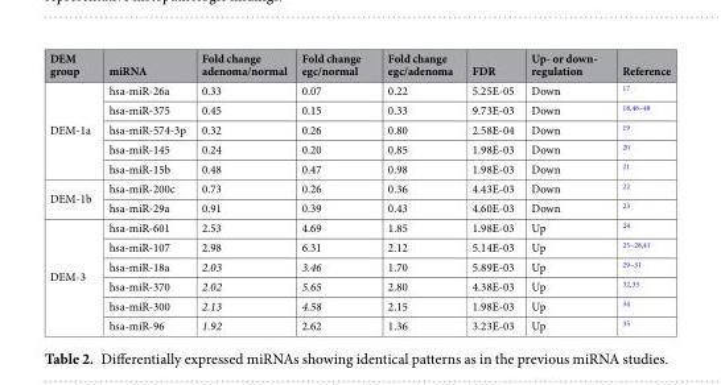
<table><thead><tr><td>DEM group</td><td>miRNA</td><td>Fold change adenoma/normal</td><td>Fold change egc/normal</td><td>Fold change egc/adenoma</td><td>FDR</td><td>Up- or down- regulation</td><td>Reference</td></tr></thead><tbody><tr><td rowspan="5">DEM-1a</td><td>hsa-miR-26a</td><td>0.33</td><td>0.07</td><td>0.22</td><td>5.25E-05</td><td>Down</td><td><sup>17</sup></td></tr><tr><td>hsa-miR-375</td><td>0.45</td><td>0.15</td><td>0.33</td><td>9.73E-03</td><td>Down</td><td><sup>18,46–48</sup></td></tr><tr><td>hsa-miR-574-3p</td><td>0.32</td><td>0.26</td><td>0.80</td><td>2.58E-04</td><td>Down</td><td><sup>19</sup></td></tr><tr><td>hsa-miR-145</td><td>0.24</td><td>0.20</td><td>0.85</td><td>1.98E-03</td><td>Down</td><td><sup>20</sup></td></tr><tr><td>hsa-miR-15b</td><td>0.48</td><td>0.47</td><td>0.98</td><td>1.98E-03</td><td>Down</td><td><sup>21</sup></td></tr><tr><td rowspan="2">DEM-1b</td><td>hsa-miR-200c</td><td>0.73</td><td>0.26</td><td>0.36</td><td>4.43E-03</td><td>Down</td><td><sup>22</sup></td></tr><tr><td>hsa-miR-29a</td><td>0.91</td><td>0.39</td><td>0.43</td><td>4.60E-03</td><td>Down</td><td><sup>23</sup></td></tr><tr><td rowspan="6">DEM-3</td><td>hsa-miR-601</td><td>2.53</td><td>4.69</td><td>1.85</td><td>1.98E-03</td><td>Up</td><td><sup>24</sup></td></tr><tr><td>hsa-miR-107</td><td>2.98</td><td>6.31</td><td>2.12</td><td>5.14E-03</td><td>Up</td><td><sup>25–28,41</sup></td></tr><tr><td>hsa-miR-18a</td><td>2.03</td><td>3.46</td><td>1.70</td><td>5.89E-03</td><td>Up</td><td><sup>29–31</sup></td></tr><tr><td>hsa-miR-370</td><td>2.02</td><td>5.65</td><td>2.80</td><td>4.38E-03</td><td>Up</td><td><sup>32,33</sup></td></tr><tr><td>hsa-miR-300</td><td>2.13</td><td>4.58</td><td>2.15</td><td>1.98E-03</td><td>Up</td><td><sup>34</sup></td></tr><tr><td>hsa-miR-96</td><td>1.92</td><td>2.62</td><td>1.36</td><td>3.23E-03</td><td>Up</td><td><sup>35</sup></td></tr></tbody></table>